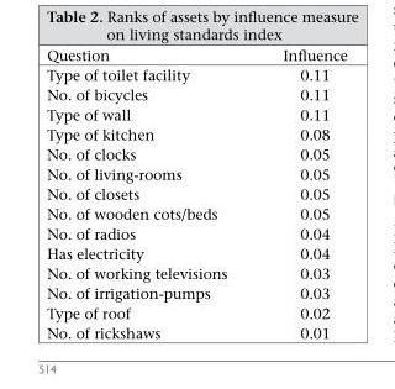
<table><thead><tr><td>Question</td><td>Influence</td></tr></thead><tbody><tr><td>Type of toilet facility</td><td>0.11</td></tr><tr><td>No. of bicycles</td><td>0.11</td></tr><tr><td>Type of wall</td><td>0.11</td></tr><tr><td>Type of kitchen</td><td>0.08</td></tr><tr><td>No. of clocks</td><td>0.05</td></tr><tr><td>No. of living-rooms</td><td>0.05</td></tr><tr><td>No. of closets</td><td>0.05</td></tr><tr><td>No. of wooden cots/beds</td><td>0.05</td></tr><tr><td>No. of radios</td><td>0.04</td></tr><tr><td>Has electricity</td><td>0.04</td></tr><tr><td>No. of working televisions</td><td>0.03</td></tr><tr><td>No. of irrigation-pumps</td><td>0.03</td></tr><tr><td>Type of roof</td><td>0.02</td></tr><tr><td>No. of rickshaws</td><td>0.01</td></tr></tbody></table>